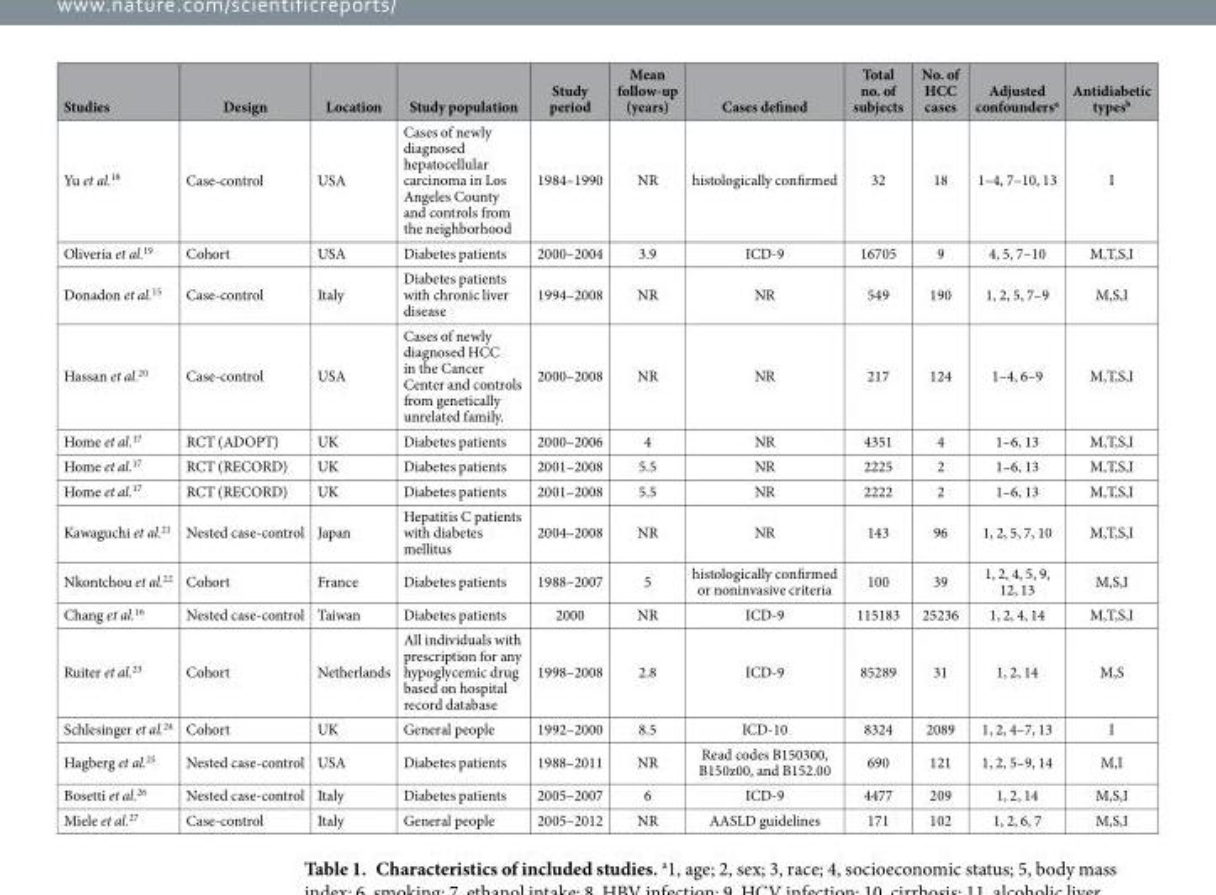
<table><thead><tr><td>Studies</td><td>Design</td><td>Location</td><td>Study population</td><td>Study period</td><td>Mean follow-up (years)</td><td>Cases defined</td><td>Total no. of subjects</td><td>No. of HCC cases</td><td>Adjusted confounders<sup>a</sup></td><td>Antidiabetic types<sup>b</sup></td></tr></thead><tbody><tr><td>Yu et al.<sup>18</sup></td><td>Case-control</td><td>USA</td><td>Cases of newly diagnosed hepatocellular carcinoma in Los Angeles County and controls from the neighborhood</td><td>1984–1990</td><td>NR</td><td>histologically confirmed</td><td>32</td><td>18</td><td>1–4, 7–10, 13</td><td>I</td></tr><tr><td>Oliveria et al.<sup>19</sup></td><td>Cohort</td><td>USA</td><td>Diabetes patients</td><td>2000–2004</td><td>3.9</td><td>ICD-9</td><td>16705</td><td>9</td><td>4, 5, 7–10</td><td>M,T,S,I</td></tr><tr><td>Donadon et al.<sup>15</sup></td><td>Case-control</td><td>Italy</td><td>Diabetes patients with chronic liver disease</td><td>1994–2008</td><td>NR</td><td>NR</td><td>549</td><td>190</td><td>1, 2, 5, 7–9</td><td>M,S,I</td></tr><tr><td>Hassan et al.<sup>20</sup></td><td>Case-control</td><td>USA</td><td>Cases of newly diagnosed HCC in the Cancer Center and controls from genetically unrelated family.</td><td>2000–2008</td><td>NR</td><td>NR</td><td>217</td><td>124</td><td>1–4, 6–9</td><td>M,T,S,I</td></tr><tr><td>Home et al.<sup>17</sup></td><td>RCT (ADOPT)</td><td>UK</td><td>Diabetes patients</td><td>2000–2006</td><td>4</td><td>NR</td><td>4351</td><td>4</td><td>1–6, 13</td><td>M,T,S,I</td></tr><tr><td>Home et al.<sup>17</sup></td><td>RCT (RECORD)</td><td>UK</td><td>Diabetes patients</td><td>2001–2008</td><td>5.5</td><td>NR</td><td>2225</td><td>2</td><td>1–6, 13</td><td>M,T,S,I</td></tr><tr><td>Home et al.<sup>17</sup></td><td>RCT (RECORD)</td><td>UK</td><td>Diabetes patients</td><td>2001–2008</td><td>5.5</td><td>NR</td><td>2222</td><td>2</td><td>1–6, 13</td><td>M,T,S,I</td></tr><tr><td>Kawaguchi et al.<sup>21</sup></td><td>Nested case-control</td><td>Japan</td><td>Hepatitis C patients with diabetes mellitus</td><td>2004–2008</td><td>NR</td><td>NR</td><td>143</td><td>96</td><td>1, 2, 5, 7, 10</td><td>M,T,S,I</td></tr><tr><td>Nkontchou et al.<sup>22</sup></td><td>Cohort</td><td>France</td><td>Diabetes patients</td><td>1988–2007</td><td>5</td><td>histologically confirmed or noninvasive criteria</td><td>100</td><td>39</td><td>1, 2, 4, 5, 9, 12, 13</td><td>M,S,I</td></tr><tr><td>Chang et al.<sup>16</sup></td><td>Nested case-control</td><td>Taiwan</td><td>Diabetes patients</td><td>2000</td><td>NR</td><td>ICD-9</td><td>115183</td><td>25236</td><td>1, 2, 4, 14</td><td>M,T,S,I</td></tr><tr><td>Ruiter et al.<sup>23</sup></td><td>Cohort</td><td>Netherlands</td><td>All individuals with prescription for any hypoglycemic drug based on hospital record database</td><td>1998–2008</td><td>2.8</td><td>ICD-9</td><td>85289</td><td>31</td><td>1, 2, 14</td><td>M,S</td></tr><tr><td>Schlesinger et al.<sup>24</sup></td><td>Cohort</td><td>UK</td><td>General people</td><td>1992–2000</td><td>8.5</td><td>ICD-10</td><td>8324</td><td>2089</td><td>1, 2, 4–7, 13</td><td>I</td></tr><tr><td>Hagberg et al.<sup>25</sup></td><td>Nested case-control</td><td>USA</td><td>Diabetes patients</td><td>1988–2011</td><td>NR</td><td>Read codes B150300, B150z00, and B152.00</td><td>690</td><td>121</td><td>1, 2, 5–9, 14</td><td>M,I</td></tr><tr><td>Bosetti et al.<sup>26</sup></td><td>Nested case-control</td><td>Italy</td><td>Diabetes patients</td><td>2005–2007</td><td>6</td><td>ICD-9</td><td>4477</td><td>209</td><td>1, 2, 14</td><td>M,S,I</td></tr><tr><td>Miele et al.<sup>27</sup></td><td>Case-control</td><td>Italy</td><td>General people</td><td>2005–2012</td><td>NR</td><td>AASLD guidelines</td><td>171</td><td>102</td><td>1, 2, 6, 7</td><td>M,S,I</td></tr></tbody></table>